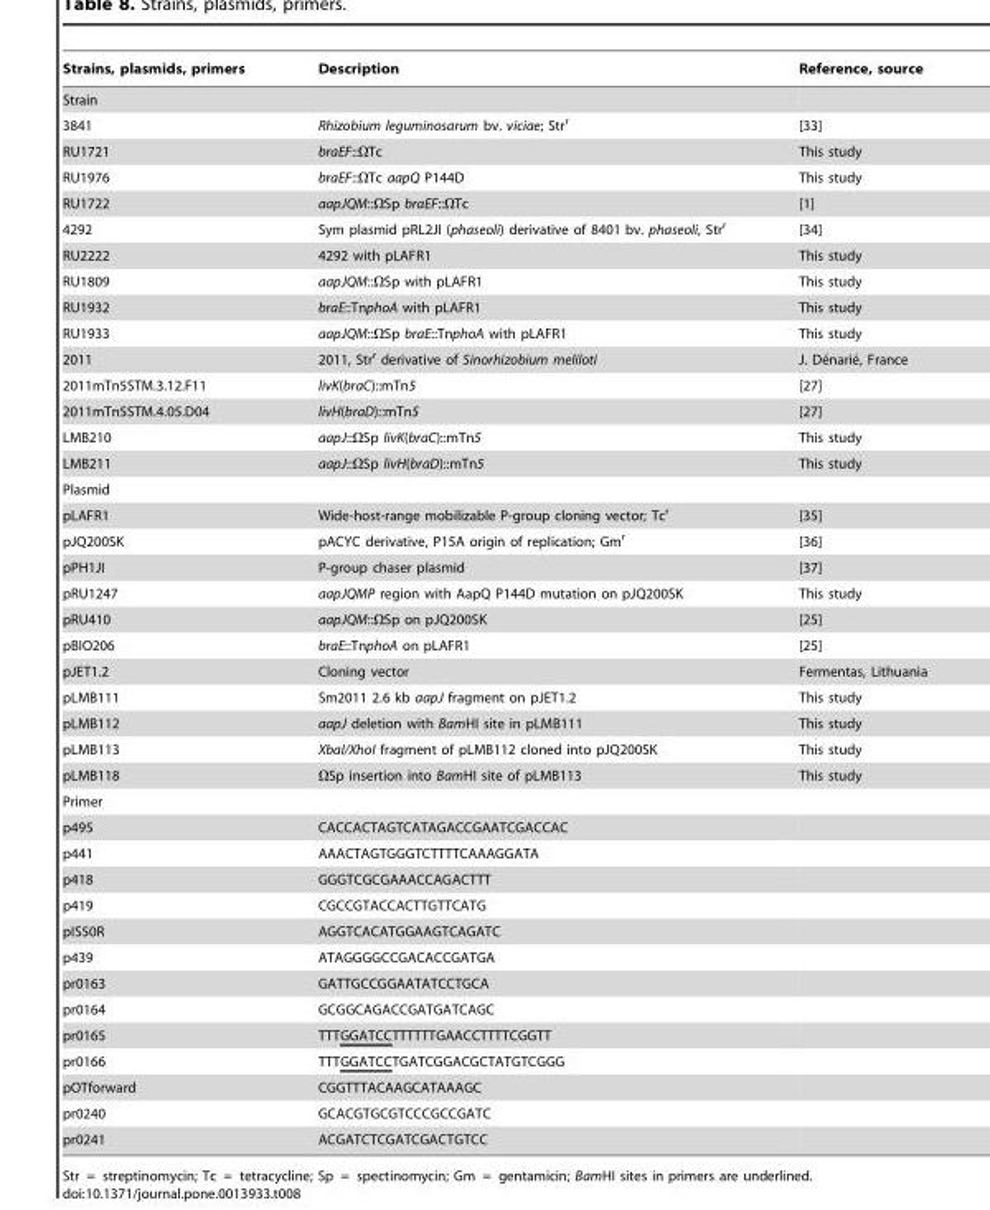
<table><thead><tr><td>Strains, plasmids, primers</td><td>Description</td><td>Reference, source</td></tr></thead><tbody><tr><td colspan="3">Strain</td></tr><tr><td>3841</td><td>Rhizobium leguminosarum bv. viciae; Str<sup>r</sup></td><td>[33]</td></tr><tr><td>RU1721</td><td>braEF::ΩTc</td><td>This study</td></tr><tr><td>RU1976</td><td>braEF::ΩTc aapQ P144D</td><td>This study</td></tr><tr><td>RU1722</td><td>aapJQM::ΩSp braEF::ΩTc</td><td>[1]</td></tr><tr><td>4292</td><td>Sym plasmid pRL2JI (phaseoli) derivative of 8401 bv. phaseoli, Str<sup>r</sup></td><td>[34]</td></tr><tr><td>RU2222</td><td>4292 with pLAFR1</td><td>This study</td></tr><tr><td>RU1809</td><td>aapJQM::ΩSp with pLAFR1</td><td>This study</td></tr><tr><td>RU1932</td><td>braE::TnphoA with pLAFR1</td><td>This study</td></tr><tr><td>RU1933</td><td>aapJQM::ΩSp braE::TnphoA with pLAFR1</td><td>This study</td></tr><tr><td>2011</td><td>2011, Str<sup>r</sup> derivative of Sinorhizobium meliloti</td><td>J. De´narie´, France</td></tr><tr><td>2011mTn5STM.3.12.F11</td><td>livK(braC)::mTn5</td><td>[27]</td></tr><tr><td>2011mTn5STM.4.05.D04</td><td>livH(braD)::mTn5</td><td>[27]</td></tr><tr><td>LMB210</td><td>aapJ::ΩSp livK(braC)::mTn5</td><td>This study</td></tr><tr><td>LMB211</td><td>aapJ::ΩSp livH(braD)::mTn5</td><td>This study</td></tr><tr><td colspan="3">Plasmid</td></tr><tr><td>pLAFR1</td><td>Wide-host-range mobilizable P-group cloning vector; Tc<sup>r</sup></td><td>[35]</td></tr><tr><td>pJQ200SK</td><td>pACYC derivative, P15A origin of replication; Gm<sup>r</sup></td><td>[36]</td></tr><tr><td>pPH1JI</td><td>P-group chaser plasmid</td><td>[37]</td></tr><tr><td>pRU1247</td><td>aapJQMP region with AapQ P144D mutation on pJQ200SK</td><td>This study</td></tr><tr><td>pRU410</td><td>aapJQM::ΩSp on pJQ200SK</td><td>[25]</td></tr><tr><td>pBIO206</td><td>braE::TnphoA on pLAFR1</td><td>[25]</td></tr><tr><td>pJET1.2</td><td>Cloning vector</td><td>Fermentas, Lithuania</td></tr><tr><td>pLMB111</td><td>Sm2011 2.6 kb aapJ fragment on pJET1.2</td><td>This study</td></tr><tr><td>pLMB112</td><td>aapJ deletion with BamHI site in pLMB111</td><td>This study</td></tr><tr><td>pLMB113</td><td>XbaI/XhoI fragment of pLMB112 cloned into pJQ200SK</td><td>This study</td></tr><tr><td>pLMB118</td><td>ΩSp insertion into BamHI site of pLMB113</td><td>This study</td></tr><tr><td colspan="3">Primer</td></tr><tr><td>p495</td><td>CACCACTAGTCATAGACCGAATCGACCAC</td><td></td></tr><tr><td>p441</td><td>AAACTAGTGGGTCTTTTCAAAGGATA</td><td></td></tr><tr><td>p418</td><td>GGGTCGCGAAACCAGACTTT</td><td></td></tr><tr><td>p419</td><td>CGCCGTACCACTTGTTCATG</td><td></td></tr><tr><td>pIS50R</td><td>AGGTCACATGGAAGTCAGATC</td><td></td></tr><tr><td>p439</td><td>ATAGGGGCCGACACCGATGA</td><td></td></tr><tr><td>pr0163</td><td>GATTGCCGGAATATCCTGCA</td><td></td></tr><tr><td>pr0164</td><td>GCGGCAGACCGATGATCAGC</td><td></td></tr><tr><td>pr0165</td><td>TTTGGATCCTTTTTTGAACCTTTTCGGTT</td><td></td></tr><tr><td>pr0166</td><td>TTTGGATCCTGATCGGACGCTATGTCGGG</td><td></td></tr><tr><td>pOTforward</td><td>CGGTTTACAAGCATAAAGC</td><td></td></tr><tr><td>pr0240</td><td>GCACGTGCGTCCCGCCGATC</td><td></td></tr><tr><td>pr0241</td><td>ACGATCTCGATCGACTGTCC</td><td></td></tr></tbody></table>